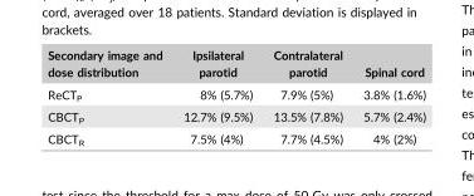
<table><thead><tr><td>Secondary image and dose distribution</td><td>Ipsilateral parotid</td><td>Contralateral parotid</td><td>Spinal cord</td></tr></thead><tbody><tr><td>ReCT<sub>P</sub></td><td>8% (5.7%)</td><td>7.9% (5%)</td><td>3.8% (1.6%)</td></tr><tr><td>CBCT<sub>P</sub></td><td>12.7% (9.5%)</td><td>13.5% (7.8%)</td><td>5.7% (2.4%)</td></tr><tr><td>CBCT<sub>R</sub></td><td>7.5% (4%)</td><td>7.7% (4.5%)</td><td>4% (2%)</td></tr></tbody></table>